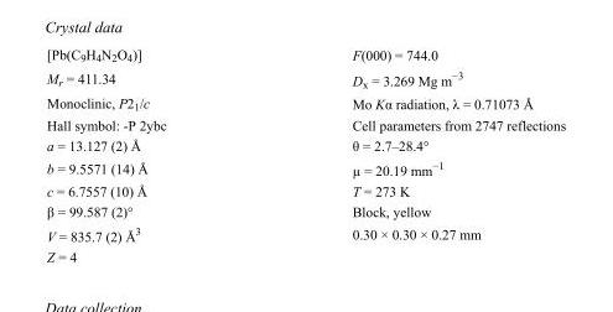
<table><tbody><tr><td>[Pb(C<sub>9</sub>H<sub>4</sub>N<sub>2</sub>O<sub>4</sub>)]</td><td>F(000) = 744.0</td></tr><tr><td>M<sub>r</sub> = 411.34</td><td>D<sub>x</sub> = 3.269 Mg m<sup>−3</sup></td></tr><tr><td>Monoclinic, P2<sub>1</sub>/c</td><td>Mo Kα radiation, λ = 0.71073 Å</td></tr><tr><td>Hall symbol: -P 2ybc</td><td>Cell parameters from 2747 reflections</td></tr><tr><td>a = 13.127 (2) Å</td><td>θ = 2.7–28.4°</td></tr><tr><td>b = 9.5571 (14) Å</td><td>µ = 20.19 mm<sup>−1</sup></td></tr><tr><td>c = 6.7557 (10) Å</td><td>T = 273 K</td></tr><tr><td>β = 99.587 (2)°</td><td>Block, yellow</td></tr><tr><td>V = 835.7 (2) Å<sup>3</sup></td><td>0.30 × 0.30 × 0.27 mm</td></tr><tr><td>Z = 4</td><td></td></tr></tbody></table>